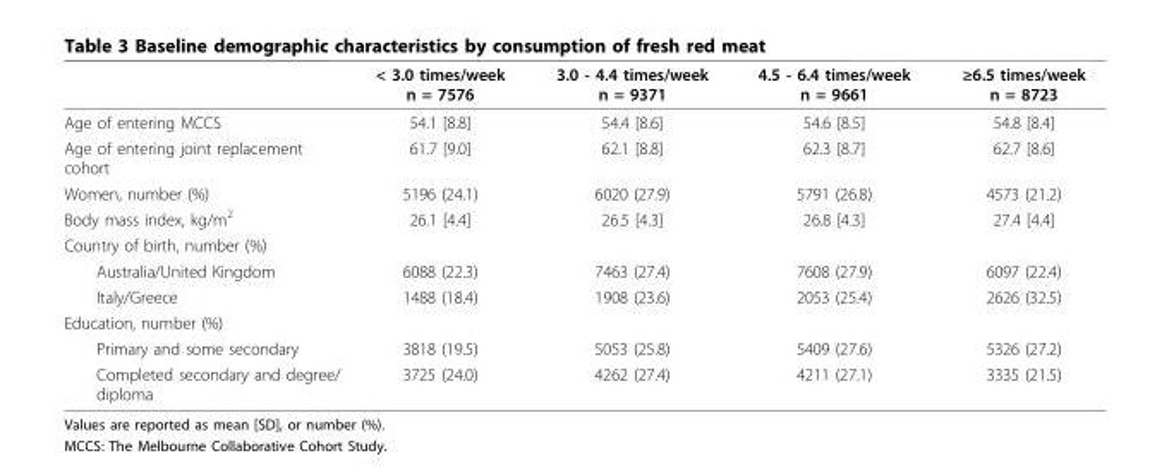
<table><thead><tr><td></td><td>&lt; 3.0 times/week n = 7576</td><td>3.0 - 4.4 times/week n = 9371</td><td>4.5 - 6.4 times/week n = 9661</td><td>≥6.5 times/week n = 8723</td></tr></thead><tbody><tr><td>Age of entering MCCS</td><td>54.1 [8.8]</td><td>54.4 [8.6]</td><td>54.6 [8.5]</td><td>54.8 [8.4]</td></tr><tr><td>Age of entering joint replacement cohort</td><td>61.7 [9.0]</td><td>62.1 [8.8]</td><td>62.3 [8.7]</td><td>62.7 [8.6]</td></tr><tr><td>Women, number (%)</td><td>5196 (24.1)</td><td>6020 (27.9)</td><td>5791 (26.8)</td><td>4573 (21.2)</td></tr><tr><td>Body mass index, kg/m<sup>2</sup></td><td>26.1 [4.4]</td><td>26.5 [4.3]</td><td>26.8 [4.3]</td><td>27.4 [4.4]</td></tr><tr><td colspan="5">Country of birth, number (%)</td></tr><tr><td>Australia/United Kingdom</td><td>6088 (22.3)</td><td>7463 (27.4)</td><td>7608 (27.9)</td><td>6097 (22.4)</td></tr><tr><td>Italy/Greece</td><td>1488 (18.4)</td><td>1908 (23.6)</td><td>2053 (25.4)</td><td>2626 (32.5)</td></tr><tr><td colspan="5">Education, number (%)</td></tr><tr><td>Primary and some secondary</td><td>3818 (19.5)</td><td>5053 (25.8)</td><td>5409 (27.6)</td><td>5326 (27.2)</td></tr><tr><td>Completed secondary and degree/ diploma</td><td>3725 (24.0)</td><td>4262 (27.4)</td><td>4211 (27.1)</td><td>3335 (21.5)</td></tr></tbody></table>